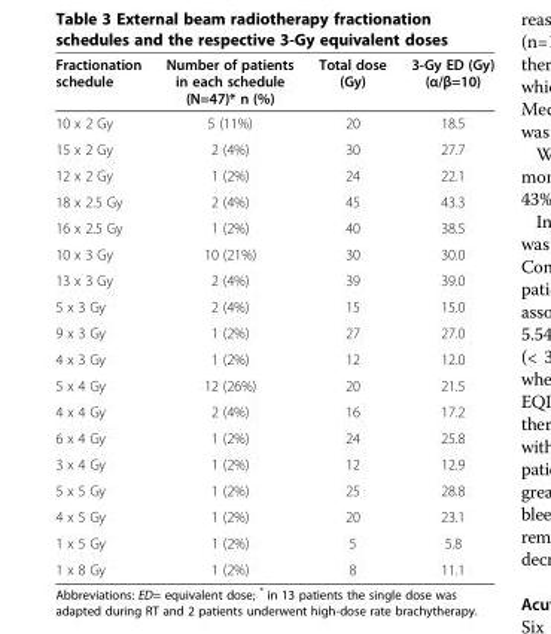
<table><thead><tr><td>Fractionation schedule</td><td>Number of patients in each schedule (N=47)* n (%)</td><td>Total dose (Gy)</td><td>3-Gy ED (Gy) (α/β=10)</td></tr></thead><tbody><tr><td>10 x 2 Gy</td><td>5 (11%)</td><td>20</td><td>18.5</td></tr><tr><td>15 x 2 Gy</td><td>2 (4%)</td><td>30</td><td>27.7</td></tr><tr><td>12 x 2 Gy</td><td>1 (2%)</td><td>24</td><td>22.1</td></tr><tr><td>18 x 2.5 Gy</td><td>2 (4%)</td><td>45</td><td>43.3</td></tr><tr><td>16 x 2.5 Gy</td><td>1 (2%)</td><td>40</td><td>38.5</td></tr><tr><td>10 x 3 Gy</td><td>10 (21%)</td><td>30</td><td>30.0</td></tr><tr><td>13 x 3 Gy</td><td>2 (4%)</td><td>39</td><td>39.0</td></tr><tr><td>5 x 3 Gy</td><td>2 (4%)</td><td>15</td><td>15.0</td></tr><tr><td>9 x 3 Gy</td><td>1 (2%)</td><td>27</td><td>27.0</td></tr><tr><td>4 x 3 Gy</td><td>1 (2%)</td><td>12</td><td>12.0</td></tr><tr><td>5 x 4 Gy</td><td>12 (26%)</td><td>20</td><td>21.5</td></tr><tr><td>4 x 4 Gy</td><td>2 (4%)</td><td>16</td><td>17.2</td></tr><tr><td>6 x 4 Gy</td><td>1 (2%)</td><td>24</td><td>25.8</td></tr><tr><td>3 x 4 Gy</td><td>1 (2%)</td><td>12</td><td>12.9</td></tr><tr><td>5 x 5 Gy</td><td>1 (2%)</td><td>25</td><td>28.8</td></tr><tr><td>4 x 5 Gy</td><td>1 (2%)</td><td>20</td><td>23.1</td></tr><tr><td>1 x 5 Gy</td><td>1 (2%)</td><td>5</td><td>5.8</td></tr><tr><td>1 x 8 Gy</td><td>1 (2%)</td><td>8</td><td>11.1</td></tr></tbody></table>